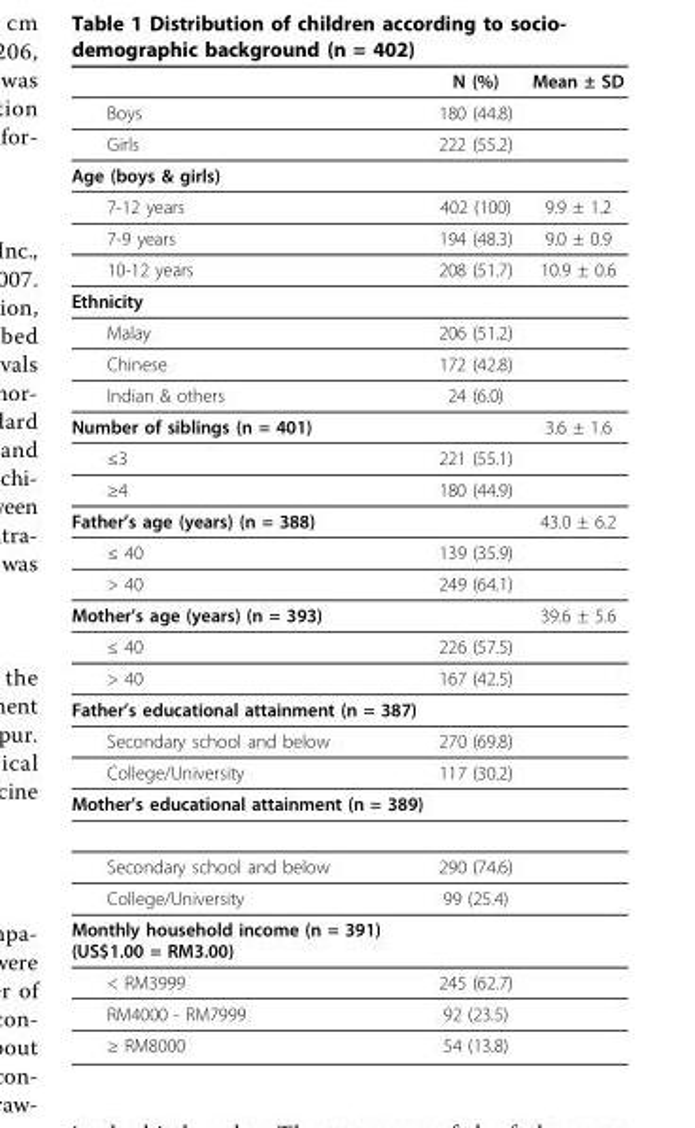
<table><thead><tr><td></td><td>N (%)</td><td>Mean ± SD</td></tr></thead><tbody><tr><td>Boys</td><td>180 (44.8)</td><td></td></tr><tr><td>Girls</td><td>222 (55.2)</td><td></td></tr><tr><td colspan="3">Age (boys &amp; girls)</td></tr><tr><td>7-12 years</td><td>402 (100)</td><td>9.9 ± 1.2</td></tr><tr><td>7-9 years</td><td>194 (48.3)</td><td>9.0 ± 0.9</td></tr><tr><td>10-12 years</td><td>208 (51.7)</td><td>10.9 ± 0.6</td></tr><tr><td colspan="3">Ethnicity</td></tr><tr><td>Malay</td><td>206 (51.2)</td><td></td></tr><tr><td>Chinese</td><td>172 (42.8)</td><td></td></tr><tr><td>Indian &amp; others</td><td>24 (6.0)</td><td></td></tr><tr><td>Number of siblings (n = 401)</td><td></td><td>3.6 ± 1.6</td></tr><tr><td>≤3</td><td>221 (55.1)</td><td></td></tr><tr><td>≥4</td><td>180 (44.9)</td><td></td></tr><tr><td>Father’s age (years) (n = 388)</td><td></td><td>43.0 ± 6.2</td></tr><tr><td>≤ 40</td><td>139 (35.9)</td><td></td></tr><tr><td>&gt; 40</td><td>249 (64.1)</td><td></td></tr><tr><td>Mother’s age (years) (n = 393)</td><td></td><td>39.6 ± 5.6</td></tr><tr><td>≤ 40</td><td>226 (57.5)</td><td></td></tr><tr><td>&gt; 40</td><td>167 (42.5)</td><td></td></tr><tr><td colspan="3">Father’s educational attainment (n = 387)</td></tr><tr><td>Secondary school and below</td><td>270 (69.8)</td><td></td></tr><tr><td>College/University</td><td>117 (30.2)</td><td></td></tr><tr><td colspan="3">Mother’s educational attainment (n = 389)</td></tr><tr><td>Secondary school and below</td><td>290 (74.6)</td><td></td></tr><tr><td>College/University</td><td>99 (25.4)</td><td></td></tr><tr><td colspan="3">Monthly household income (n = 391) (US$1.00 = RM3.00)</td></tr><tr><td>&lt; RM3999</td><td>245 (62.7)</td><td></td></tr><tr><td>RM4000 - RM7999</td><td>92 (23.5)</td><td></td></tr><tr><td>≥ RM8000</td><td>54 (13.8)</td><td></td></tr></tbody></table>